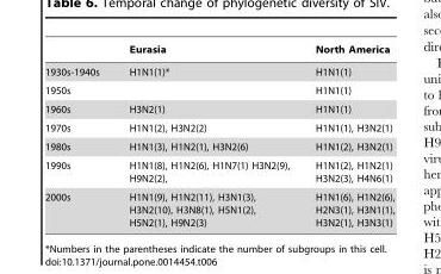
<table><thead><tr><td></td><td>Eurasia</td><td>North America</td></tr></thead><tbody><tr><td>1930s-1940s</td><td>H1N1(1)*</td><td>H1N1(1)</td></tr><tr><td>1950s</td><td></td><td>H1N1(1)</td></tr><tr><td>1960s</td><td>H3N2(1)</td><td>H1N1(1)</td></tr><tr><td>1970s</td><td>H1N1(2), H3N2(2)</td><td>H1N1(1), H3N2(1)</td></tr><tr><td>1980s</td><td>H1N1(3), H1N2(1), H3N2(6)</td><td>H1N1(2), H3N2(1)</td></tr><tr><td>1990s</td><td>H1N1(8), H1N2(6), H1N7(1) H3N2(9), H9N2(2),</td><td>H1N1(2), H1N2(1) H3N2(3), H4N6(1)</td></tr><tr><td>2000s</td><td>H1N1(9), H1N2(11), H3N1(3), H3N2(10), H3N8(1), H5N1(2), H5N2(1), H9N2(3)</td><td>H1N1(6), H1N2(6), H2N3(1), H3N1(1), H3N2(1), H3N3(1)</td></tr></tbody></table>